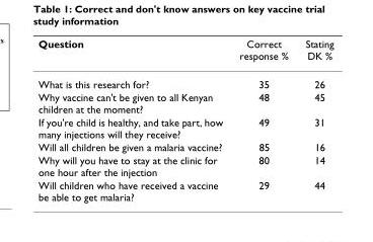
<table><thead><tr><td>Question</td><td>Correct response %</td><td>Stating DK %</td></tr></thead><tbody><tr><td>What is this research for?</td><td>35</td><td>26</td></tr><tr><td>Why vaccine can&#x27;t be given to all Kenyan children at the moment?</td><td>48</td><td>45</td></tr><tr><td>If you&#x27;re child is healthy, and take part, how many injections will they receive?</td><td>49</td><td>31</td></tr><tr><td>Will all children be given a malaria vaccine?</td><td>85</td><td>16</td></tr><tr><td>Why will you have to stay at the clinic for one hour after the injection</td><td>80</td><td>14</td></tr><tr><td>Will children who have received a vaccine be able to get malaria?</td><td>29</td><td>44</td></tr></tbody></table>